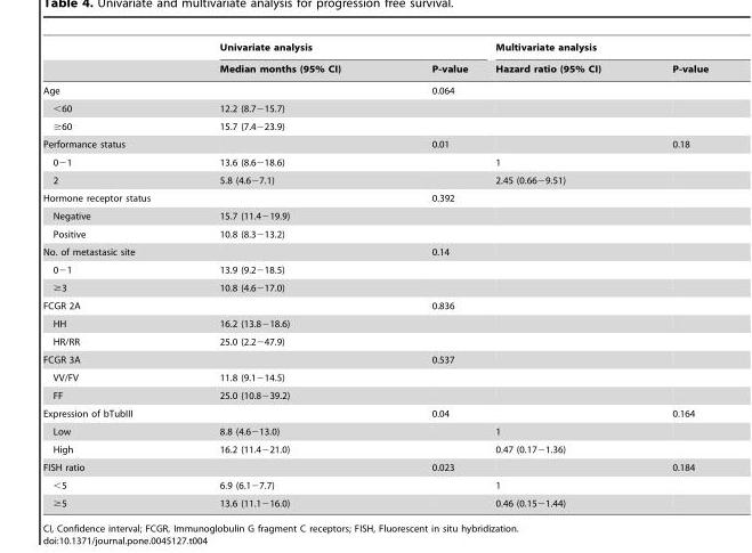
<table><thead><tr><td rowspan="2"></td><td colspan="2">Univariate analysis</td><td colspan="2">Multivariate analysis</td></tr><tr><td>Median months (95% CI)</td><td>P-value</td><td>Hazard ratio (95% CI)</td><td>P-value</td></tr></thead><tbody><tr><td>Age</td><td></td><td>0.064</td><td></td><td></td></tr><tr><td>&lt;60</td><td>12.2 (8.7−15.7)</td><td></td><td></td><td></td></tr><tr><td>≥60</td><td>15.7 (7.4−23.9)</td><td></td><td></td><td></td></tr><tr><td>Performance status</td><td></td><td>0.01</td><td></td><td>0.18</td></tr><tr><td>0−1</td><td>13.6 (8.6−18.6)</td><td></td><td>1</td><td></td></tr><tr><td>2</td><td>5.8 (4.6−7.1)</td><td></td><td>2.45 (0.66−9.51)</td><td></td></tr><tr><td>Hormone receptor status</td><td></td><td>0.392</td><td></td><td></td></tr><tr><td>Negative</td><td>15.7 (11.4−19.9)</td><td></td><td></td><td></td></tr><tr><td>Positive</td><td>10.8 (8.3−13.2)</td><td></td><td></td><td></td></tr><tr><td>No. of metastasic site</td><td></td><td>0.14</td><td></td><td></td></tr><tr><td>0−1</td><td>13.9 (9.2−18.5)</td><td></td><td></td><td></td></tr><tr><td>≥3</td><td>10.8 (4.6−17.0)</td><td></td><td></td><td></td></tr><tr><td>FCGR 2A</td><td></td><td>0.836</td><td></td><td></td></tr><tr><td>HH</td><td>16.2 (13.8−18.6)</td><td></td><td></td><td></td></tr><tr><td>HR/RR</td><td>25.0 (2.2−47.9)</td><td></td><td></td><td></td></tr><tr><td>FCGR 3A</td><td></td><td>0.537</td><td></td><td></td></tr><tr><td>VV/FV</td><td>11.8 (9.1−14.5)</td><td></td><td></td><td></td></tr><tr><td>FF</td><td>25.0 (10.8−39.2)</td><td></td><td></td><td></td></tr><tr><td>Expression of bTubIII</td><td></td><td>0.04</td><td></td><td>0.164</td></tr><tr><td>Low</td><td>8.8 (4.6−13.0)</td><td></td><td>1</td><td></td></tr><tr><td>High</td><td>16.2 (11.4−21.0)</td><td></td><td>0.47 (0.17−1.36)</td><td></td></tr><tr><td>FISH ratio</td><td></td><td>0.023</td><td></td><td>0.184</td></tr><tr><td>&lt;5</td><td>6.9 (6.1−7.7)</td><td></td><td>1</td><td></td></tr><tr><td>≥5</td><td>13.6 (11.1−16.0)</td><td></td><td>0.46 (0.15−1.44)</td><td></td></tr></tbody></table>